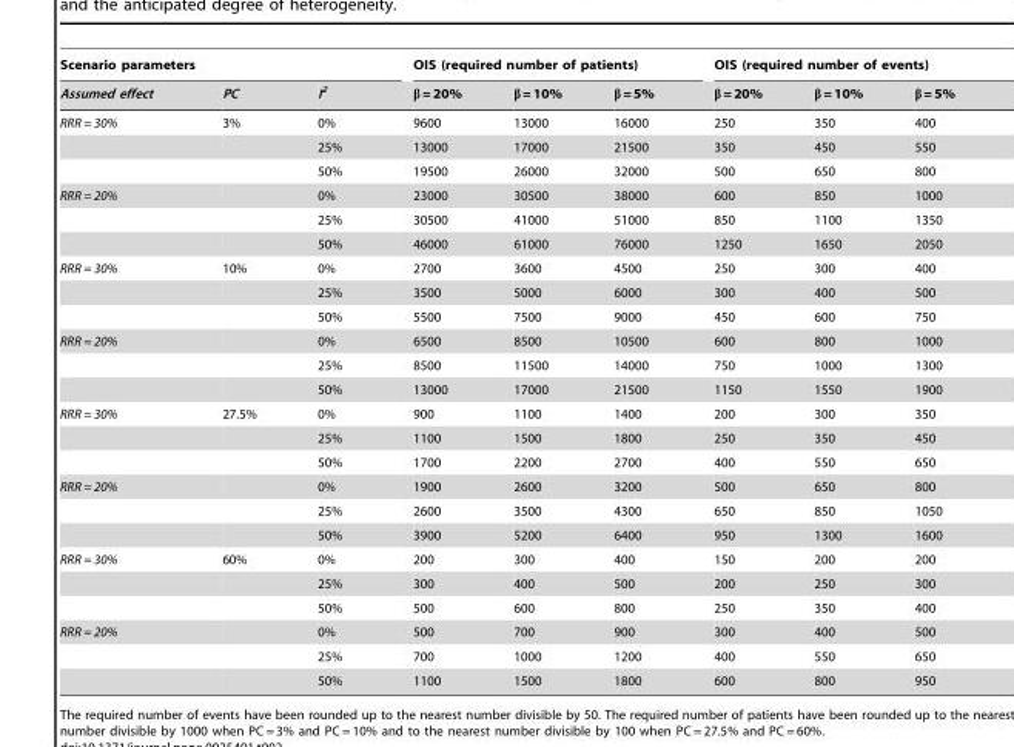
<table><thead><tr><td colspan="3">Scenario parameters</td><td colspan="3">OIS (required number of patients)</td><td colspan="3">OIS (required number of events)</td></tr><tr><td>Assumed effect</td><td>PC</td><td>I<sup>2</sup></td><td>β = 20%</td><td>β = 10%</td><td>β = 5%</td><td>β = 20%</td><td>β = 10%</td><td>β = 5%</td></tr></thead><tbody><tr><td rowspan="3">RRR = 30%</td><td>3%</td><td>0%</td><td>9600</td><td>13000</td><td>16000</td><td>250</td><td>350</td><td>400</td></tr><tr><td></td><td>25%</td><td>13000</td><td>17000</td><td>21500</td><td>350</td><td>450</td><td>550</td></tr><tr><td></td><td>50%</td><td>19500</td><td>26000</td><td>32000</td><td>500</td><td>650</td><td>800</td></tr><tr><td rowspan="3">RRR = 20%</td><td></td><td>0%</td><td>23000</td><td>30500</td><td>38000</td><td>600</td><td>850</td><td>1000</td></tr><tr><td></td><td>25%</td><td>30500</td><td>41000</td><td>51000</td><td>850</td><td>1100</td><td>1350</td></tr><tr><td></td><td>50%</td><td>46000</td><td>61000</td><td>76000</td><td>1250</td><td>1650</td><td>2050</td></tr><tr><td rowspan="3">RRR = 30%</td><td>10%</td><td>0%</td><td>2700</td><td>3600</td><td>4500</td><td>250</td><td>300</td><td>400</td></tr><tr><td></td><td>25%</td><td>3500</td><td>5000</td><td>6000</td><td>300</td><td>400</td><td>500</td></tr><tr><td></td><td>50%</td><td>5500</td><td>7500</td><td>9000</td><td>450</td><td>600</td><td>750</td></tr><tr><td rowspan="3">RRR = 20%</td><td></td><td>0%</td><td>6500</td><td>8500</td><td>10500</td><td>600</td><td>800</td><td>1000</td></tr><tr><td></td><td>25%</td><td>8500</td><td>11500</td><td>14000</td><td>750</td><td>1000</td><td>1300</td></tr><tr><td></td><td>50%</td><td>13000</td><td>17000</td><td>21500</td><td>1150</td><td>1550</td><td>1900</td></tr><tr><td rowspan="3">RRR = 30%</td><td>27.5%</td><td>0%</td><td>900</td><td>1100</td><td>1400</td><td>200</td><td>300</td><td>350</td></tr><tr><td></td><td>25%</td><td>1100</td><td>1500</td><td>1800</td><td>250</td><td>350</td><td>450</td></tr><tr><td></td><td>50%</td><td>1700</td><td>2200</td><td>2700</td><td>400</td><td>550</td><td>650</td></tr><tr><td rowspan="3">RRR = 20%</td><td></td><td>0%</td><td>1900</td><td>2600</td><td>3200</td><td>500</td><td>650</td><td>800</td></tr><tr><td></td><td>25%</td><td>2600</td><td>3500</td><td>4300</td><td>650</td><td>850</td><td>1050</td></tr><tr><td></td><td>50%</td><td>3900</td><td>5200</td><td>6400</td><td>950</td><td>1300</td><td>1600</td></tr><tr><td rowspan="3">RRR = 30%</td><td>60%</td><td>0%</td><td>200</td><td>300</td><td>400</td><td>150</td><td>200</td><td>200</td></tr><tr><td></td><td>25%</td><td>300</td><td>400</td><td>500</td><td>200</td><td>250</td><td>300</td></tr><tr><td></td><td>50%</td><td>500</td><td>600</td><td>800</td><td>250</td><td>350</td><td>400</td></tr><tr><td rowspan="3">RRR = 20%</td><td></td><td>0%</td><td>500</td><td>700</td><td>900</td><td>300</td><td>400</td><td>500</td></tr><tr><td></td><td>25%</td><td>700</td><td>1000</td><td>1200</td><td>400</td><td>550</td><td>650</td></tr><tr><td></td><td>50%</td><td>1100</td><td>1500</td><td>1800</td><td>600</td><td>800</td><td>950</td></tr></tbody></table>